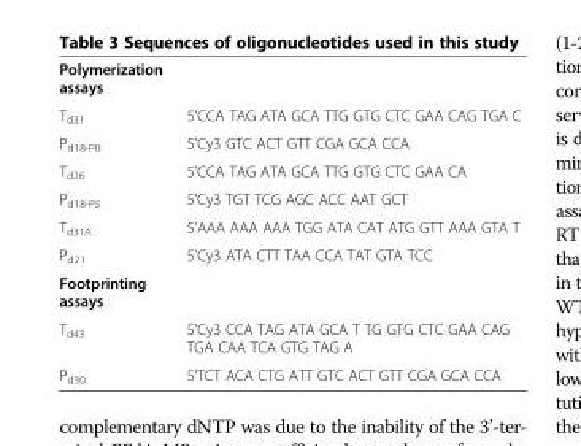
<table><tbody><tr><td colspan="2">Polymerization assays</td></tr><tr><td>T<sub>d31</sub></td><td>5’CCA TAG ATA GCA TTG GTG CTC GAA CAG TGA C</td></tr><tr><td>P<sub>d18-P0</sub></td><td>5’Cy3 GTC ACT GTT CGA GCA CCA</td></tr><tr><td>T<sub>d26</sub></td><td>5’CCA TAG ATA GCA TTG GTG CTC GAA CA</td></tr><tr><td>P<sub>d18-P5</sub></td><td>5’Cy3 TGT TCG AGC ACC AAT GCT</td></tr><tr><td>T<sub>d31A</sub></td><td>5’AAA AAA AAA TGG ATA CAT ATG GTT AAA GTA T</td></tr><tr><td>P<sub>d21</sub></td><td>5’Cy3 ATA CTT TAA CCA TAT GTA TCC</td></tr><tr><td colspan="2">Footprinting assays</td></tr><tr><td>T<sub>d43</sub></td><td>5’Cy3 CCA TAG ATA GCA T TG GTG CTC GAA CAG TGA CAA TCA GTG TAG A</td></tr><tr><td>P<sub>d30</sub></td><td>5’TCT ACA CTG ATT GTC ACT GTT CGA GCA CCA</td></tr></tbody></table>